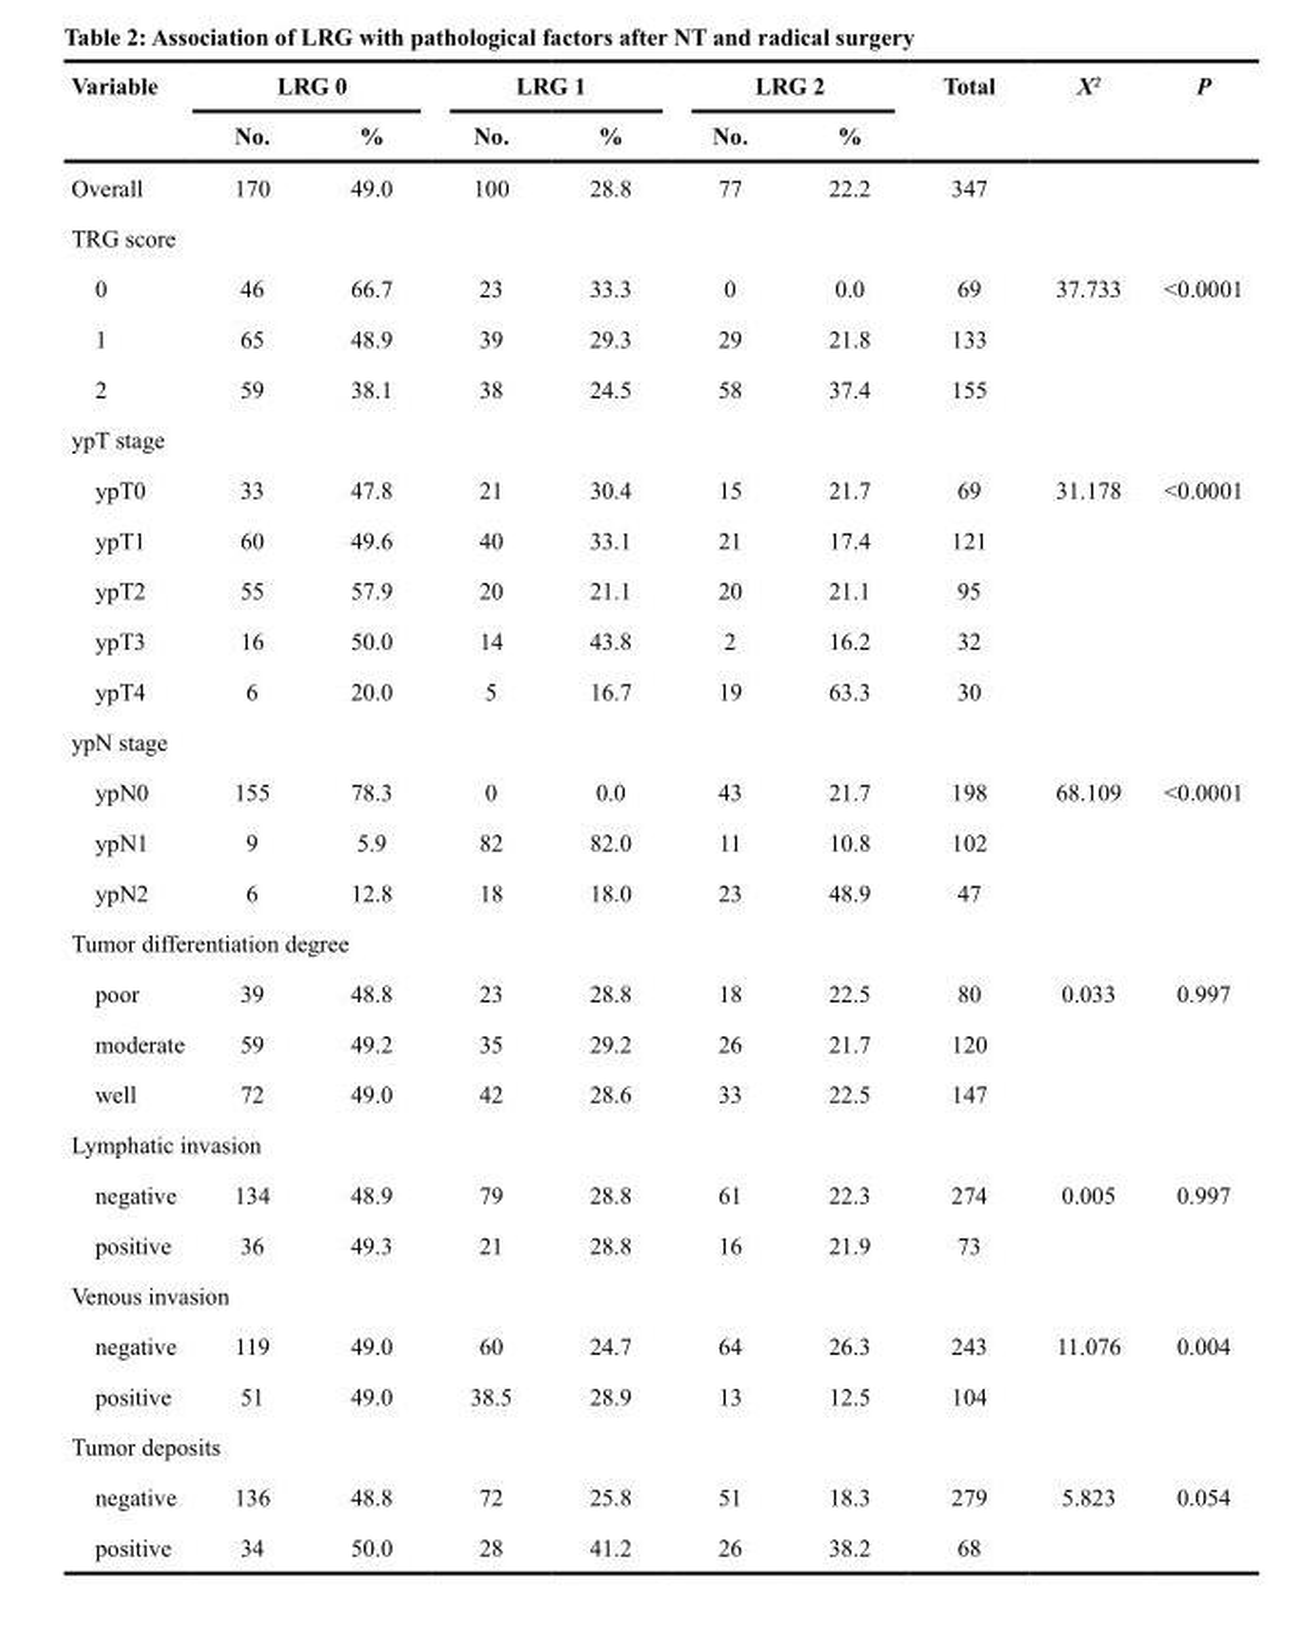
<table><thead><tr><td rowspan="2">Variable</td><td colspan="2">LRG 0</td><td colspan="2">LRG 1</td><td colspan="2">LRG 2</td><td rowspan="2">Total</td><td rowspan="2">X <sup>2</sup></td><td rowspan="2">P</td></tr><tr><td>No.</td><td>%</td><td>No.</td><td>%</td><td>No.</td><td>%</td></tr></thead><tbody><tr><td>Overall</td><td>170</td><td>49.0</td><td>100</td><td>28.8</td><td>77</td><td>22.2</td><td>347</td><td></td><td></td></tr><tr><td colspan="10">TRG score</td></tr><tr><td>0</td><td>46</td><td>66.7</td><td>23</td><td>33.3</td><td>0</td><td>0.0</td><td>69</td><td>37.733</td><td>&lt;0.0001</td></tr><tr><td>1</td><td>65</td><td>48.9</td><td>39</td><td>29.3</td><td>29</td><td>21.8</td><td>133</td><td></td><td></td></tr><tr><td>2</td><td>59</td><td>38.1</td><td>38</td><td>24.5</td><td>58</td><td>37.4</td><td>155</td><td></td><td></td></tr><tr><td colspan="10">ypT stage</td></tr><tr><td>ypT0</td><td>33</td><td>47.8</td><td>21</td><td>30.4</td><td>15</td><td>21.7</td><td>69</td><td>31.178</td><td>&lt;0.0001</td></tr><tr><td>ypT1</td><td>60</td><td>49.6</td><td>40</td><td>33.1</td><td>21</td><td>17.4</td><td>121</td><td></td><td></td></tr><tr><td>ypT2</td><td>55</td><td>57.9</td><td>20</td><td>21.1</td><td>20</td><td>21.1</td><td>95</td><td></td><td></td></tr><tr><td>ypT3</td><td>16</td><td>50.0</td><td>14</td><td>43.8</td><td>2</td><td>16.2</td><td>32</td><td></td><td></td></tr><tr><td>ypT4</td><td>6</td><td>20.0</td><td>5</td><td>16.7</td><td>19</td><td>63.3</td><td>30</td><td></td><td></td></tr><tr><td colspan="10">ypN stage</td></tr><tr><td>ypN0</td><td>155</td><td>78.3</td><td>0</td><td>0.0</td><td>43</td><td>21.7</td><td>198</td><td>68.109</td><td>&lt;0.0001</td></tr><tr><td>ypN1</td><td>9</td><td>5.9</td><td>82</td><td>82.0</td><td>11</td><td>10.8</td><td>102</td><td></td><td></td></tr><tr><td>ypN2</td><td>6</td><td>12.8</td><td>18</td><td>18.0</td><td>23</td><td>48.9</td><td>47</td><td></td><td></td></tr><tr><td colspan="10">Tumor differentiation degree</td></tr><tr><td>poor</td><td>39</td><td>48.8</td><td>23</td><td>28.8</td><td>18</td><td>22.5</td><td>80</td><td>0.033</td><td>0.997</td></tr><tr><td>moderate</td><td>59</td><td>49.2</td><td>35</td><td>29.2</td><td>26</td><td>21.7</td><td>120</td><td></td><td></td></tr><tr><td>well</td><td>72</td><td>49.0</td><td>42</td><td>28.6</td><td>33</td><td>22.5</td><td>147</td><td></td><td></td></tr><tr><td colspan="10">Lymphatic invasion</td></tr><tr><td>negative</td><td>134</td><td>48.9</td><td>79</td><td>28.8</td><td>61</td><td>22.3</td><td>274</td><td>0.005</td><td>0.997</td></tr><tr><td>positive</td><td>36</td><td>49.3</td><td>21</td><td>28.8</td><td>16</td><td>21.9</td><td>73</td><td></td><td></td></tr><tr><td colspan="10">Venous invasion</td></tr><tr><td>negative</td><td>119</td><td>49.0</td><td>60</td><td>24.7</td><td>64</td><td>26.3</td><td>243</td><td>11.076</td><td>0.004</td></tr><tr><td>positive</td><td>51</td><td>49.0</td><td>38.5</td><td>28.9</td><td>13</td><td>12.5</td><td>104</td><td></td><td></td></tr><tr><td colspan="10">Tumor deposits</td></tr><tr><td>negative</td><td>136</td><td>48.8</td><td>72</td><td>25.8</td><td>51</td><td>18.3</td><td>279</td><td>5.823</td><td>0.054</td></tr><tr><td>positive</td><td>34</td><td>50.0</td><td>28</td><td>41.2</td><td>26</td><td>38.2</td><td>68</td><td></td><td></td></tr></tbody></table>